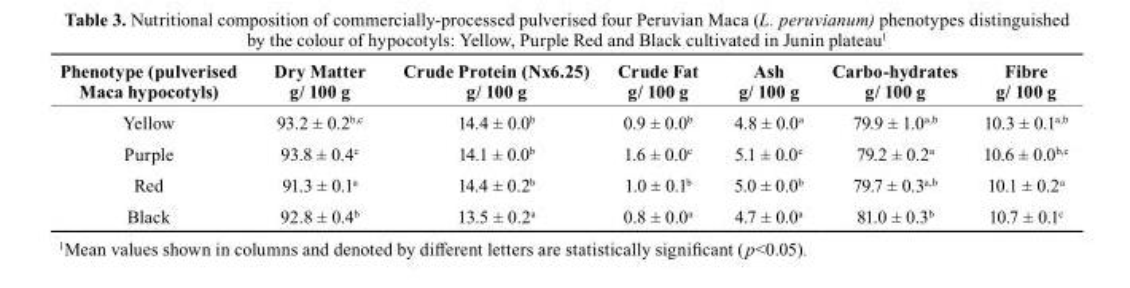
<table><thead><tr><td>Phenotype (pulverised Maca hypocotyls)</td><td>Dry Matter g/ 100 g</td><td>crude Protein (Nx6.25) g/ 100 g</td><td>crude Fat g/ 100 g</td><td>Ash g/ 100 g</td><td>carbo-hydrates g/ 100 g</td><td>Fibre g/ 100 g</td></tr></thead><tbody><tr><td>Yellow</td><td>93.2 ± 0.2<sup>b,c</sup></td><td>14.4 ± 0.0<sup>b</sup></td><td>0.9 ± 0.0<sup>b</sup></td><td>4.8 ± 0.0<sup>a</sup></td><td>79.9 ± 1.0<sup>a,b</sup></td><td>10.3 ± 0.1<sup>a,b</sup></td></tr><tr><td>Purple</td><td>93.8 ± 0.4<sup>c</sup></td><td>14.1 ± 0.0<sup>b</sup></td><td>1.6 ± 0.0<sup>c</sup></td><td>5.1 ± 0.0<sup>c</sup></td><td>79.2 ± 0.2<sup>a</sup></td><td>10.6 ± 0.0<sup>b,c</sup></td></tr><tr><td>Red</td><td>91.3 ± 0.1<sup>a</sup></td><td>14.4 ± 0.2<sup>b</sup></td><td>1.0 ± 0.1<sup>b</sup></td><td>5.0 ± 0.0<sup>b</sup></td><td>79.7 ± 0.3<sup>a,b</sup></td><td>10.1 ± 0.2<sup>a</sup></td></tr><tr><td>Black</td><td>92.8 ± 0.4<sup>b</sup></td><td>13.5 ± 0.2<sup>a</sup></td><td>0.8 ± 0.0<sup>a</sup></td><td>4.7 ± 0.0<sup>a</sup></td><td>81.0 ± 0.3<sup>b</sup></td><td>10.7 ± 0.1<sup>c</sup></td></tr></tbody></table>